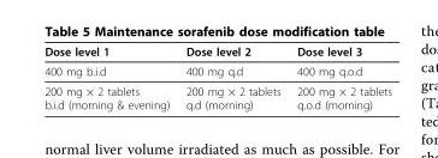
<table><thead><tr><td>Dose level 1</td><td>Dose level 2</td><td>Dose level 3</td></tr></thead><tbody><tr><td>400 mg b.i.d</td><td>400 mg q.d</td><td>400 mg q.o.d</td></tr><tr><td>200 mg × 2 tablets b.i.d (morning &amp; evening)</td><td>200 mg × 2 tablets q.d (morning)</td><td>200 mg × 2 tablets q.o.d (morning)</td></tr></tbody></table>